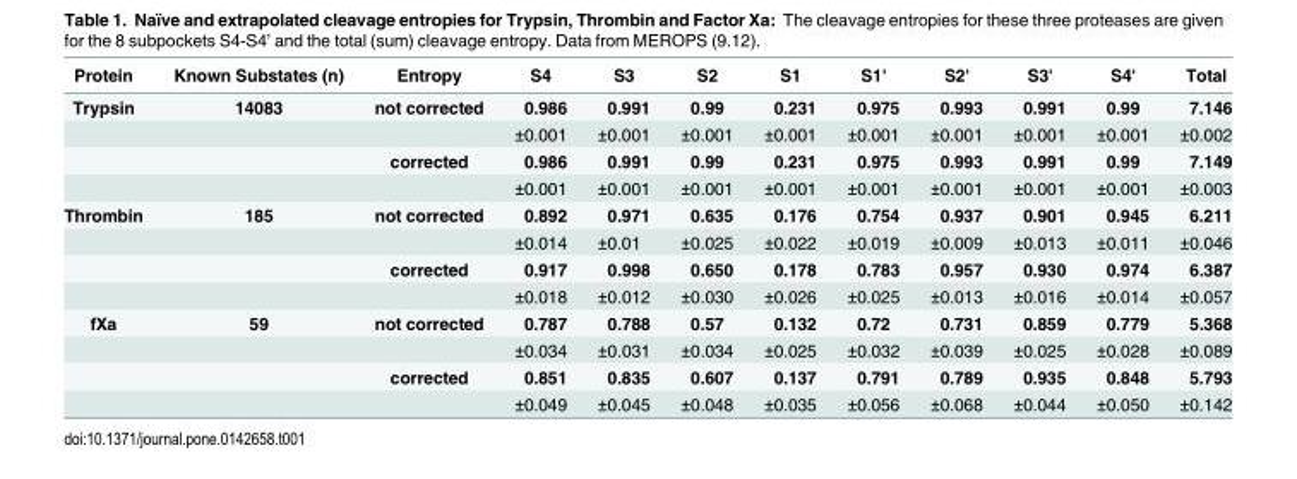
<table><thead><tr><td>Protein</td><td>Known Substates (n)</td><td>Entropy</td><td>S4</td><td>S3</td><td>S2</td><td>S1</td><td>S1&#x27;</td><td>S2&#x27;</td><td>S3&#x27;</td><td>S4&#x27;</td><td>Total</td></tr></thead><tbody><tr><td rowspan="4">Trypsin</td><td>14083</td><td>not corrected</td><td>0.986</td><td>0.991</td><td>0.99</td><td>0.231</td><td>0.975</td><td>0.993</td><td>0.991</td><td>0.99</td><td>7.146</td></tr><tr><td></td><td></td><td>±0.001</td><td>±0.001</td><td>±0.001</td><td>±0.001</td><td>±0.001</td><td>±0.001</td><td>±0.001</td><td>±0.001</td><td>±0.002</td></tr><tr><td></td><td>corrected</td><td>0.986</td><td>0.991</td><td>0.99</td><td>0.231</td><td>0.975</td><td>0.993</td><td>0.991</td><td>0.99</td><td>7.149</td></tr><tr><td></td><td></td><td>±0.001</td><td>±0.001</td><td>±0.001</td><td>±0.001</td><td>±0.001</td><td>±0.001</td><td>±0.001</td><td>±0.001</td><td>±0.003</td></tr><tr><td rowspan="4">Thrombin</td><td>185</td><td>not corrected</td><td>0.892</td><td>0.971</td><td>0.635</td><td>0.176</td><td>0.754</td><td>0.937</td><td>0.901</td><td>0.945</td><td>6.211</td></tr><tr><td></td><td></td><td>±0.014</td><td>±0.01</td><td>±0.025</td><td>±0.022</td><td>±0.019</td><td>±0.009</td><td>±0.013</td><td>±0.011</td><td>±0.046</td></tr><tr><td></td><td>corrected</td><td>0.917</td><td>0.998</td><td>0.650</td><td>0.178</td><td>0.783</td><td>0.957</td><td>0.930</td><td>0.974</td><td>6.387</td></tr><tr><td></td><td></td><td>±0.018</td><td>±0.012</td><td>±0.030</td><td>±0.026</td><td>±0.025</td><td>±0.013</td><td>±0.016</td><td>±0.014</td><td>±0.057</td></tr><tr><td rowspan="4">fXa</td><td>59</td><td>not corrected</td><td>0.787</td><td>0.788</td><td>0.57</td><td>0.132</td><td>0.72</td><td>0.731</td><td>0.859</td><td>0.779</td><td>5.368</td></tr><tr><td></td><td></td><td>±0.034</td><td>±0.031</td><td>±0.034</td><td>±0.025</td><td>±0.032</td><td>±0.039</td><td>±0.025</td><td>±0.028</td><td>±0.089</td></tr><tr><td></td><td>corrected</td><td>0.851</td><td>0.835</td><td>0.607</td><td>0.137</td><td>0.791</td><td>0.789</td><td>0.935</td><td>0.848</td><td>5.793</td></tr><tr><td></td><td></td><td>±0.049</td><td>±0.045</td><td>±0.048</td><td>±0.035</td><td>±0.056</td><td>±0.068</td><td>±0.044</td><td>±0.050</td><td>±0.142</td></tr></tbody></table>